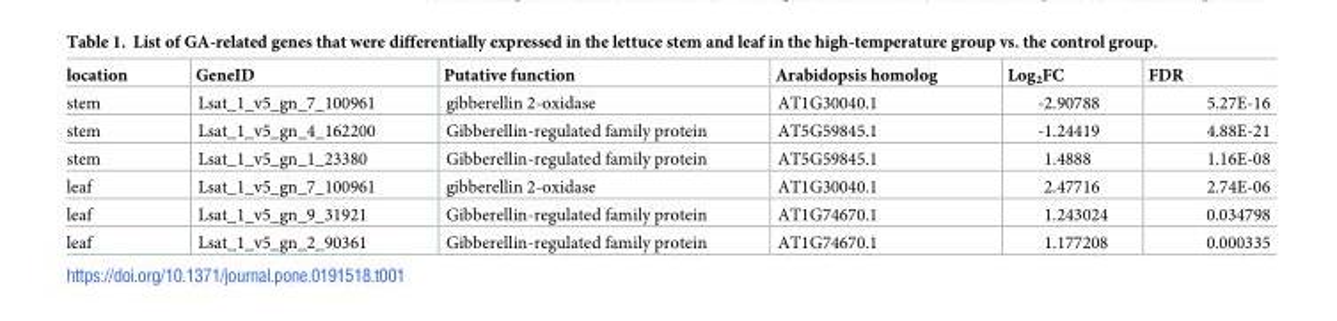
<table><thead><tr><td>location</td><td>GeneID</td><td>Putative function</td><td>Arabidopsis homolog</td><td>Log<sub>2</sub>FC</td><td>FDR</td></tr></thead><tbody><tr><td>stem</td><td>Lsat_1_v5_gn_7_100961</td><td>gibberellin 2-oxidase</td><td>AT1G30040.1</td><td>-2.90788</td><td>5.27E-16</td></tr><tr><td>stem</td><td>Lsat_1_v5_gn_4_162200</td><td>Gibberellin-regulated family protein</td><td>AT5G59845.1</td><td>-1.24419</td><td>4.88E-21</td></tr><tr><td>stem</td><td>Lsat_1_v5_gn_1_23380</td><td>Gibberellin-regulated family protein</td><td>AT5G59845.1</td><td>1.4888</td><td>1.16E-08</td></tr><tr><td>leaf</td><td>Lsat_1_v5_gn_7_100961</td><td>gibberellin 2-oxidase</td><td>AT1G30040.1</td><td>2.47716</td><td>2.74E-06</td></tr><tr><td>leaf</td><td>Lsat_1_v5_gn_9_31921</td><td>Gibberellin-regulated family protein</td><td>AT1G74670.1</td><td>1.243024</td><td>0.034798</td></tr><tr><td>leaf</td><td>Lsat_1_v5_gn_2_90361</td><td>Gibberellin-regulated family protein</td><td>AT1G74670.1</td><td>1.177208</td><td>0.000335</td></tr></tbody></table>